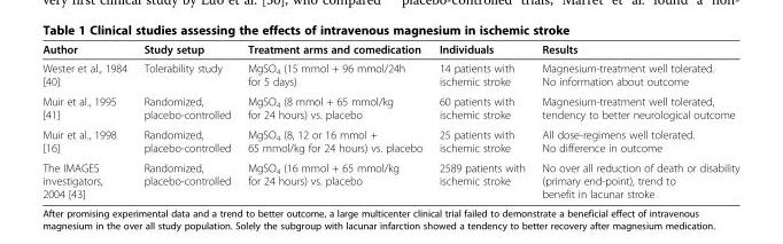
<table><thead><tr><td>Author</td><td>Study setup</td><td>Treatment arms and comedication</td><td>Individuals</td><td>Results</td></tr></thead><tbody><tr><td>Wester et al., 1984 [40]</td><td>Tolerability study</td><td>MgSO<sub>4</sub> (15 mmol + 96 mmol/24h for 5 days)</td><td>14 patients with ischemic stroke</td><td>Magnesium-treatment well tolerated. No information about outcome</td></tr><tr><td>Muir et al., 1995 [41]</td><td>Randomized, placebo-controlled</td><td>MgSO<sub>4</sub> (8 mmol + 65 mmol/kg for 24 hours) vs. placebo</td><td>60 patients with ischemic stroke</td><td>Magnesium-treatment well tolerated, tendency to better neurological outcome</td></tr><tr><td>Muir et al., 1998 [16]</td><td>Randomized, placebo-controlled</td><td>MgSO<sub>4</sub> (8, 12 or 16 mmol + 65 mmol/kg for 24 hours) vs. placebo</td><td>25 patients with ischemic stroke</td><td>All dose-regimens well tolerated. No difference in outcome</td></tr><tr><td>The IMAGES investigators, 2004 [43]</td><td>Randomized, placebo-controlled</td><td>MgSO<sub>4</sub> (16 mmol + 65 mmol/kg for 24 hours) vs. placebo</td><td>2589 patients with ischemic stroke</td><td>No over all reduction of death or disability (primary end-point), trend to benefit in lacunar stroke</td></tr></tbody></table>